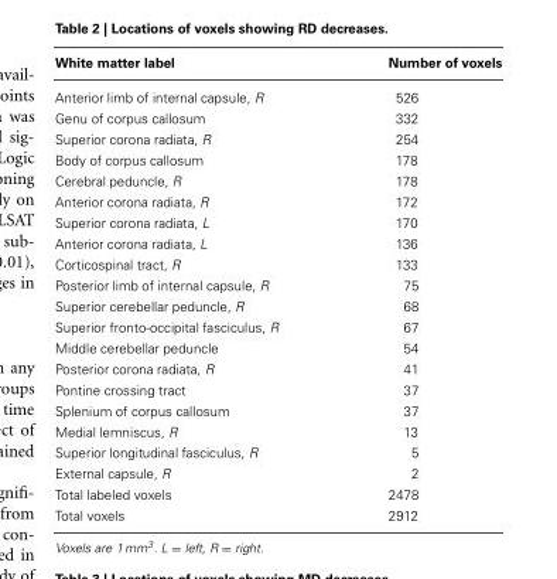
<table><thead><tr><td>White matter label</td><td>Number of voxels</td></tr></thead><tbody><tr><td>Anterior limb of internal capsule, R</td><td>526</td></tr><tr><td>Genu of corpus callosum</td><td>332</td></tr><tr><td>Superior corona radiata, R</td><td>254</td></tr><tr><td>Body of corpus callosum</td><td>178</td></tr><tr><td>Cerebral peduncle, R</td><td>178</td></tr><tr><td>Anterior corona radiata, R</td><td>172</td></tr><tr><td>Superior corona radiata, L</td><td>170</td></tr><tr><td>Anterior corona radiata, L</td><td>136</td></tr><tr><td>Corticospinal tract, R</td><td>133</td></tr><tr><td>Posterior limb of internal capsule, R</td><td>75</td></tr><tr><td>Superior cerebellar peduncle, R</td><td>68</td></tr><tr><td>Superior fronto-occipital fasciculus, R</td><td>67</td></tr><tr><td>Middle cerebellar peduncle</td><td>54</td></tr><tr><td>Posterior corona radiata, R</td><td>41</td></tr><tr><td>Pontine crossing tract</td><td>37</td></tr><tr><td>Splenium of corpus callosum</td><td>37</td></tr><tr><td>Medial lemniscus, R</td><td>13</td></tr><tr><td>Superior longitudinal fasciculus, R</td><td>5</td></tr><tr><td>External capsule, R</td><td>2</td></tr><tr><td>Total labeled voxels</td><td>2478</td></tr><tr><td>Total voxels</td><td>2912</td></tr></tbody></table>